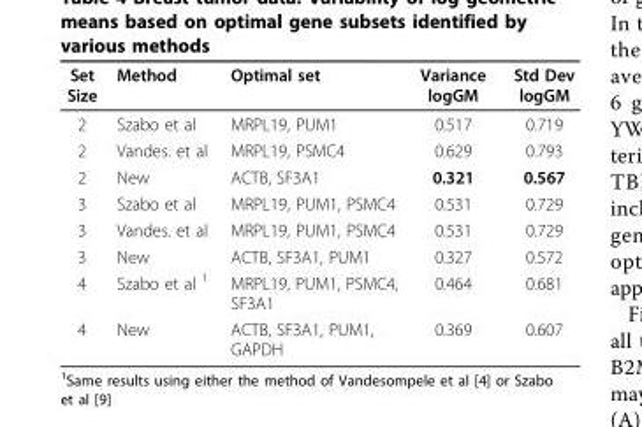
<table><thead><tr><td>Set Size</td><td>Method</td><td>Optimal set</td><td>Variance logGM</td><td>Std Dev logGM</td></tr></thead><tbody><tr><td>2</td><td>Szabo et al</td><td>MRPL19, PUM1</td><td>0.517</td><td>0.719</td></tr><tr><td>2</td><td>Vandes. et al</td><td>MRPL19, PSMC4</td><td>0.629</td><td>0.793</td></tr><tr><td>2</td><td>New</td><td>ACTB, SF3A1</td><td>0.321</td><td>0.567</td></tr><tr><td>3</td><td>Szabo et al</td><td>MRPL19, PUM1, PSMC4</td><td>0.531</td><td>0.729</td></tr><tr><td>3</td><td>Vandes. et al</td><td>MRPL19, PUM1, PSMC4</td><td>0.531</td><td>0.729</td></tr><tr><td>3</td><td>New</td><td>ACTB, SF3A1, PUM1</td><td>0.327</td><td>0.572</td></tr><tr><td>4</td><td>Szabo et al <sup>1</sup></td><td>MRPL19, PUM1, PSMC4, SF3A1</td><td>0.464</td><td>0.681</td></tr><tr><td>4</td><td>New</td><td>ACTB, SF3A1, PUM1, GAPDH</td><td>0.369</td><td>0.607</td></tr></tbody></table>